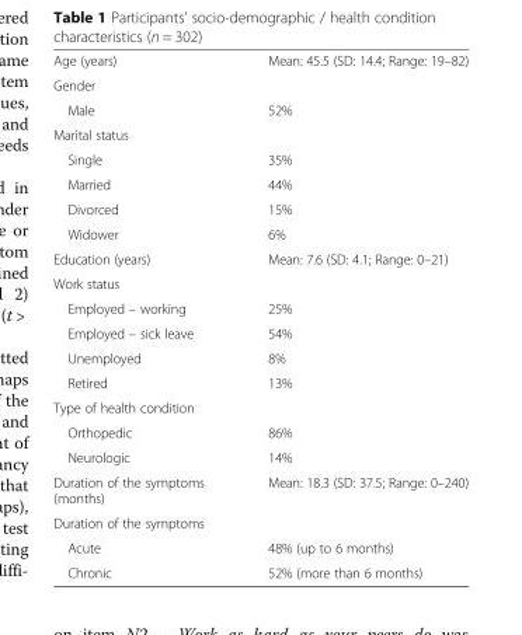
<table><tbody><tr><td>Age (years)</td><td>Mean: 45.5 (SD: 14.4; Range: 19–82)</td></tr><tr><td colspan="2">Gender</td></tr><tr><td>Male</td><td>52%</td></tr><tr><td colspan="2">Marital status</td></tr><tr><td>Single</td><td>35%</td></tr><tr><td>Married</td><td>44%</td></tr><tr><td>Divorced</td><td>15%</td></tr><tr><td>Widower</td><td>6%</td></tr><tr><td>Education (years)</td><td>Mean: 7.6 (SD: 4.1; Range: 0–21)</td></tr><tr><td colspan="2">Work status</td></tr><tr><td>Employed – working</td><td>25%</td></tr><tr><td>Employed – sick leave</td><td>54%</td></tr><tr><td>Unemployed</td><td>8%</td></tr><tr><td>Retired</td><td>13%</td></tr><tr><td colspan="2">Type of health condition</td></tr><tr><td>Orthopedic</td><td>86%</td></tr><tr><td>Neurologic</td><td>14%</td></tr><tr><td>Duration of the symptoms (months)</td><td>Mean: 18.3 (SD: 37.5; Range: 0–240)</td></tr><tr><td colspan="2">Duration of the symptoms</td></tr><tr><td>Acute</td><td>48% (up to 6 months)</td></tr><tr><td>Chronic</td><td>52% (more than 6 months)</td></tr></tbody></table>